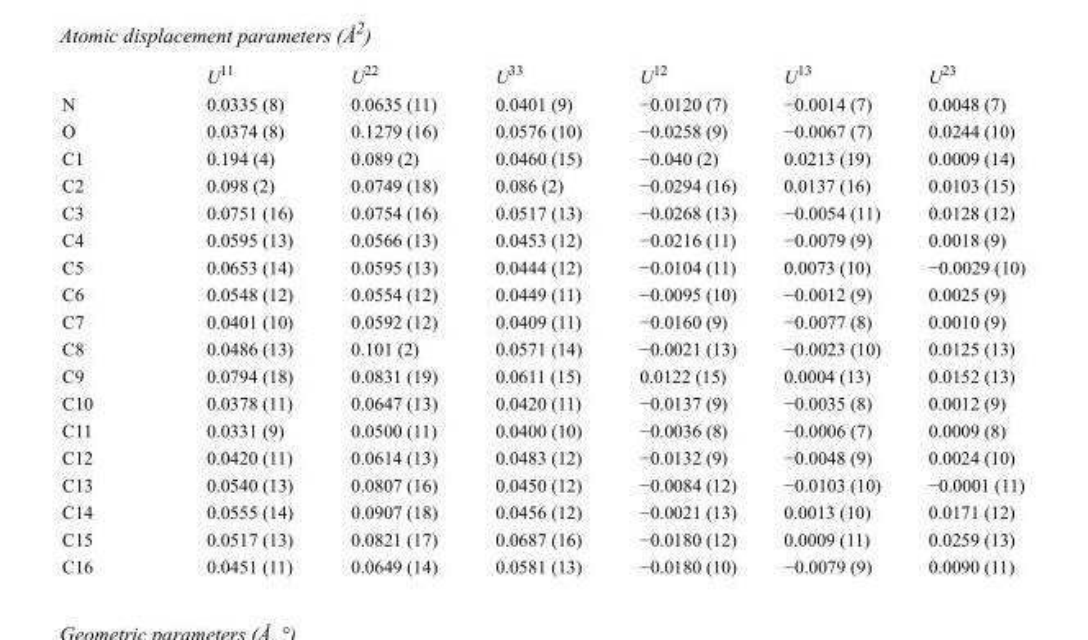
<table><thead><tr><td></td><td>U<sup>11</sup></td><td>U<sup>22</sup></td><td>U<sup>33</sup></td><td>U<sup>12</sup></td><td>U<sup>13</sup></td><td>U<sup>23</sup></td></tr></thead><tbody><tr><td>N</td><td>0.0335 (8)</td><td>0.0635 (11)</td><td>0.0401 (9)</td><td>−0.0120 (7)</td><td>−0.0014 (7)</td><td>0.0048 (7)</td></tr><tr><td>O</td><td>0.0374 (8)</td><td>0.1279 (16)</td><td>0.0576 (10)</td><td>−0.0258 (9)</td><td>−0.0067 (7)</td><td>0.0244 (10)</td></tr><tr><td>C1</td><td>0.194 (4)</td><td>0.089 (2)</td><td>0.0460 (15)</td><td>−0.040 (2)</td><td>0.0213 (19)</td><td>0.0009 (14)</td></tr><tr><td>C2</td><td>0.098 (2)</td><td>0.0749 (18)</td><td>0.086 (2)</td><td>−0.0294 (16)</td><td>0.0137 (16)</td><td>0.0103 (15)</td></tr><tr><td>C3</td><td>0.0751 (16)</td><td>0.0754 (16)</td><td>0.0517 (13)</td><td>−0.0268 (13)</td><td>−0.0054 (11)</td><td>0.0128 (12)</td></tr><tr><td>C4</td><td>0.0595 (13)</td><td>0.0566 (13)</td><td>0.0453 (12)</td><td>−0.0216 (11)</td><td>−0.0079 (9)</td><td>0.0018 (9)</td></tr><tr><td>C5</td><td>0.0653 (14)</td><td>0.0595 (13)</td><td>0.0444 (12)</td><td>−0.0104 (11)</td><td>0.0073 (10)</td><td>−0.0029 (10)</td></tr><tr><td>C6</td><td>0.0548 (12)</td><td>0.0554 (12)</td><td>0.0449 (11)</td><td>−0.0095 (10)</td><td>−0.0012 (9)</td><td>0.0025 (9)</td></tr><tr><td>C7</td><td>0.0401 (10)</td><td>0.0592 (12)</td><td>0.0409 (11)</td><td>−0.0160 (9)</td><td>−0.0077 (8)</td><td>0.0010 (9)</td></tr><tr><td>C8</td><td>0.0486 (13)</td><td>0.101 (2)</td><td>0.0571 (14)</td><td>−0.0021 (13)</td><td>−0.0023 (10)</td><td>0.0125 (13)</td></tr><tr><td>C9</td><td>0.0794 (18)</td><td>0.0831 (19)</td><td>0.0611 (15)</td><td>0.0122 (15)</td><td>0.0004 (13)</td><td>0.0152 (13)</td></tr><tr><td>C10</td><td>0.0378 (11)</td><td>0.0647 (13)</td><td>0.0420 (11)</td><td>−0.0137 (9)</td><td>−0.0035 (8)</td><td>0.0012 (9)</td></tr><tr><td>C11</td><td>0.0331 (9)</td><td>0.0500 (11)</td><td>0.0400 (10)</td><td>−0.0036 (8)</td><td>−0.0006 (7)</td><td>0.0009 (8)</td></tr><tr><td>C12</td><td>0.0420 (11)</td><td>0.0614 (13)</td><td>0.0483 (12)</td><td>−0.0132 (9)</td><td>−0.0048 (9)</td><td>0.0024 (10)</td></tr><tr><td>C13</td><td>0.0540 (13)</td><td>0.0807 (16)</td><td>0.0450 (12)</td><td>−0.0084 (12)</td><td>−0.0103 (10)</td><td>−0.0001 (11)</td></tr><tr><td>C14</td><td>0.0555 (14)</td><td>0.0907 (18)</td><td>0.0456 (12)</td><td>−0.0021 (13)</td><td>0.0013 (10)</td><td>0.0171 (12)</td></tr><tr><td>C15</td><td>0.0517 (13)</td><td>0.0821 (17)</td><td>0.0687 (16)</td><td>−0.0180 (12)</td><td>0.0009 (11)</td><td>0.0259 (13)</td></tr><tr><td>C16</td><td>0.0451 (11)</td><td>0.0649 (14)</td><td>0.0581 (13)</td><td>−0.0180 (10)</td><td>−0.0079 (9)</td><td>0.0090 (11)</td></tr></tbody></table>